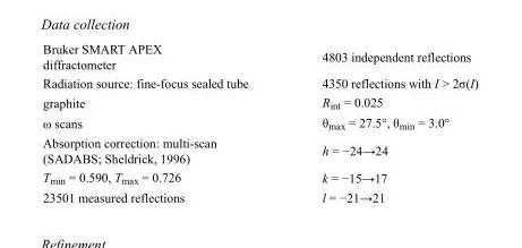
<table><tbody><tr><td>Bruker SMART APEX diffractometer</td><td>4803 independent reflections</td></tr><tr><td>Radiation source: fine-focus sealed tube</td><td>4350 reflections with I &gt; 2σ(I)</td></tr><tr><td>graphite</td><td>R<sub>int</sub> = 0.025</td></tr><tr><td>ω scans</td><td>θ<sub>max</sub> = 27.5°, θ<sub>min</sub> = 3.0°</td></tr><tr><td>Absorption correction: multi-scan (SADABS; Sheldrick, 1996)</td><td>h = −24→24</td></tr><tr><td>T<sub>min</sub> = 0.590, T<sub>max</sub> = 0.726</td><td>k = −15→17</td></tr><tr><td>23501 measured reflections</td><td>l = −21→21</td></tr></tbody></table>